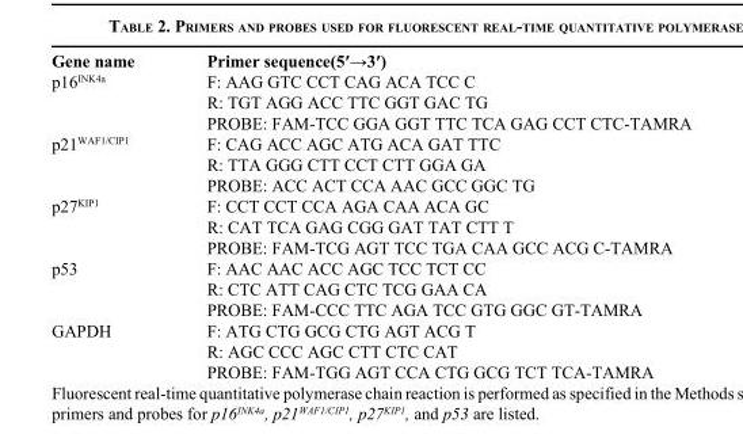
<table><thead><tr><td>Gene name</td><td>Primer sequence(5′→3′)</td></tr></thead><tbody><tr><td rowspan="3">p16<sup>INK4a</sup></td><td>F: AAG GTC CCT CAG ACA TCC C</td></tr><tr><td>R: TGT AGG ACC TTC GGT GAC TG</td></tr><tr><td>PROBE: FAM-TCC GGA GGT TTC TCA GAG CCT CTC-TAMRA</td></tr><tr><td rowspan="3">p21<sup>WAF1/CIP1</sup></td><td>F: CAG ACC AGC ATG ACA GAT TTC</td></tr><tr><td>R: TTA GGG CTT CCT CTT GGA GA</td></tr><tr><td>PROBE: ACC ACT CCA AAC GCC GGC TG</td></tr><tr><td rowspan="3">p27<sup>KIP1</sup></td><td>F: CCT CCT CCA AGA CAA ACA GC</td></tr><tr><td>R: CAT TCA GAG CGG GAT TAT CTT T</td></tr><tr><td>PROBE: FAM-TCG AGT TCC TGA CAA GCC ACG C-TAMRA</td></tr><tr><td rowspan="3">p53</td><td>F: AAC AAC ACC AGC TCC TCT CC</td></tr><tr><td>R: CTC ATT CAG CTC TCG GAA CA</td></tr><tr><td>PROBE: FAM-CCC TTC AGA TCC GTG GGC GT-TAMRA</td></tr><tr><td rowspan="3">GAPDH</td><td>F: ATG CTG GCG CTG AGT ACG T</td></tr><tr><td>R: AGC CCC AGC CTT CTC CAT</td></tr><tr><td>PROBE: FAM-TGG AGT CCA CTG GCG TCT TCA-TAMRA</td></tr></tbody></table>